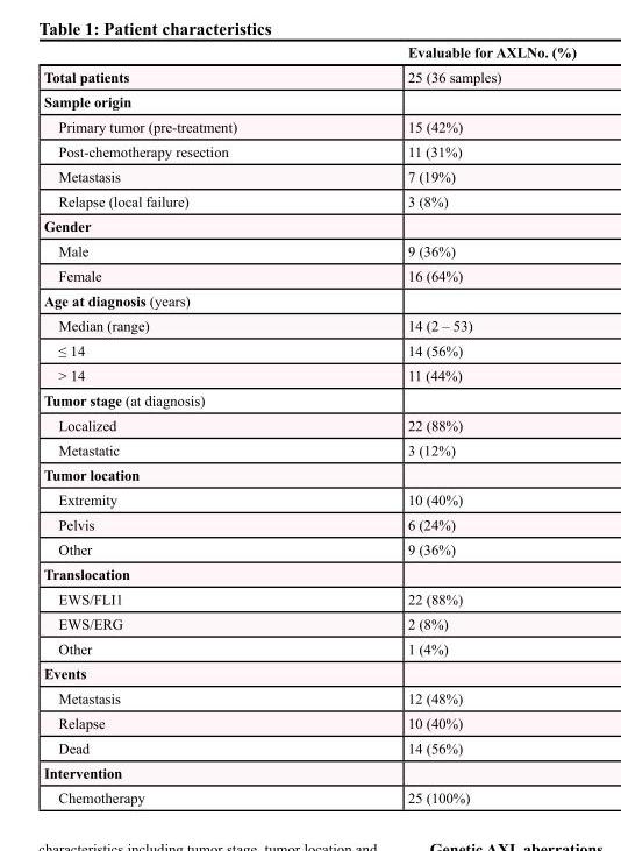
<table><thead><tr><td></td><td>Evaluable for AXLNo. (%)</td></tr></thead><tbody><tr><td>Total patients</td><td>25 (36 samples)</td></tr><tr><td colspan="2">Sample origin</td></tr><tr><td>Primary tumor (pre-treatment)</td><td>15 (42%)</td></tr><tr><td>Post-chemotherapy resection</td><td>11 (31%)</td></tr><tr><td>Metastasis</td><td>7 (19%)</td></tr><tr><td>Relapse (local failure)</td><td>3 (8%)</td></tr><tr><td colspan="2">Gender</td></tr><tr><td>Male</td><td>9 (36%)</td></tr><tr><td>Female</td><td>16 (64%)</td></tr><tr><td colspan="2">Age at diagnosis (years)</td></tr><tr><td>Median (range)</td><td>14 (2 – 53)</td></tr><tr><td>≤ 14</td><td>14 (56%)</td></tr><tr><td>&gt; 14</td><td>11 (44%)</td></tr><tr><td colspan="2">Tumor stage (at diagnosis)</td></tr><tr><td>Localized</td><td>22 (88%)</td></tr><tr><td>Metastatic</td><td>3 (12%)</td></tr><tr><td colspan="2">Tumor location</td></tr><tr><td>Extremity</td><td>10 (40%)</td></tr><tr><td>Pelvis</td><td>6 (24%)</td></tr><tr><td>Other</td><td>9 (36%)</td></tr><tr><td colspan="2">Translocation</td></tr><tr><td>EWS/FLI1</td><td>22 (88%)</td></tr><tr><td>EWS/ERG</td><td>2 (8%)</td></tr><tr><td>Other</td><td>1 (4%)</td></tr><tr><td colspan="2">Events</td></tr><tr><td>Metastasis</td><td>12 (48%)</td></tr><tr><td>Relapse</td><td>10 (40%)</td></tr><tr><td>Dead</td><td>14 (56%)</td></tr><tr><td colspan="2">Intervention</td></tr><tr><td>Chemotherapy</td><td>25 (100%)</td></tr></tbody></table>